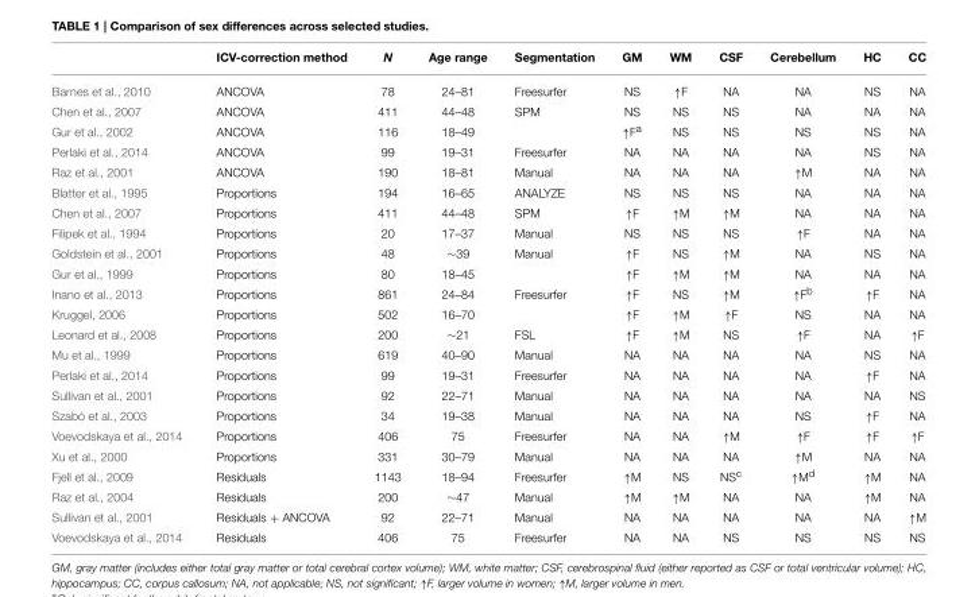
<table><thead><tr><td></td><td>ICV-correction method</td><td>N</td><td>Age range</td><td>Segmentation</td><td>GM</td><td>WM</td><td>CSF</td><td>Cerebellum</td><td>HC</td><td>CC</td></tr></thead><tbody><tr><td>Barnes et al., 2010</td><td>ANCOVA</td><td>78</td><td>24–81</td><td>Freesurfer</td><td>NS</td><td>↑F</td><td>NA</td><td>NA</td><td>NS</td><td>NA</td></tr><tr><td>Chen et al., 2007</td><td>ANCOVA</td><td>411</td><td>44–48</td><td>SPM</td><td>NS</td><td>NS</td><td>NS</td><td>NA</td><td>NA</td><td>NA</td></tr><tr><td>Gur et al., 2002</td><td>ANCOVA</td><td>116</td><td>18–49</td><td></td><td>↑F<sup>a</sup></td><td>NS</td><td>NS</td><td>NS</td><td>NS</td><td>NA</td></tr><tr><td>Perlaki et al., 2014</td><td>ANCOVA</td><td>99</td><td>19–31</td><td>Freesurfer</td><td>NA</td><td>NA</td><td>NA</td><td>NA</td><td>NS</td><td>NA</td></tr><tr><td>Raz et al., 2001</td><td>ANCOVA</td><td>190</td><td>18–81</td><td>Manual</td><td>NA</td><td>NA</td><td>NA</td><td>↑M</td><td>NA</td><td>NA</td></tr><tr><td>Blatter et al., 1995</td><td>Proportions</td><td>194</td><td>16–65</td><td>ANALYZE</td><td>NS</td><td>NS</td><td>NS</td><td>NA</td><td>NA</td><td>NA</td></tr><tr><td>Chen et al., 2007</td><td>Proportions</td><td>411</td><td>44–48</td><td>SPM</td><td>↑F</td><td>↑M</td><td>↑M</td><td>NA</td><td>NA</td><td>NA</td></tr><tr><td>Filipek et al., 1994</td><td>Proportions</td><td>20</td><td>17–37</td><td>Manual</td><td>NS</td><td>NS</td><td>NS</td><td>↑F</td><td>NA</td><td>NA</td></tr><tr><td>Goldstein et al., 2001</td><td>Proportions</td><td>48</td><td>∼39</td><td>Manual</td><td>↑F</td><td>NS</td><td>↑M</td><td>NA</td><td>NS</td><td>NA</td></tr><tr><td>Gur et al., 1999</td><td>Proportions</td><td>80</td><td>18–45</td><td></td><td>↑F</td><td>↑M</td><td>↑M</td><td>NA</td><td>NA</td><td>NA</td></tr><tr><td>Inano et al., 2013</td><td>Proportions</td><td>861</td><td>24–84</td><td>Freesurfer</td><td>↑F</td><td>NS</td><td>↑M</td><td>↑F<sup>b</sup></td><td>↑F</td><td>NA</td></tr><tr><td>Kruggel, 2006</td><td>Proportions</td><td>502</td><td>16–70</td><td></td><td>↑F</td><td>↑M</td><td>↑F</td><td>NS</td><td>NA</td><td>NA</td></tr><tr><td>Leonard et al., 2008</td><td>Proportions</td><td>200</td><td>∼21</td><td>FSL</td><td>↑F</td><td>↑M</td><td>NS</td><td>↑F</td><td>NA</td><td>↑F</td></tr><tr><td>Mu et al., 1999</td><td>Proportions</td><td>619</td><td>40–90</td><td>Manual</td><td>NA</td><td>NA</td><td>NA</td><td>NA</td><td>NS</td><td>NA</td></tr><tr><td>Perlaki et al., 2014</td><td>Proportions</td><td>99</td><td>19–31</td><td>Freesurfer</td><td>NA</td><td>NA</td><td>NA</td><td>NA</td><td>↑F</td><td>NA</td></tr><tr><td>Sullivan et al., 2001</td><td>Proportions</td><td>92</td><td>22–71</td><td>Manual</td><td>NA</td><td>NA</td><td>NA</td><td>NA</td><td>NA</td><td>NS</td></tr><tr><td>Szabó et al., 2003</td><td>Proportions</td><td>34</td><td>19–38</td><td>Manual</td><td>NA</td><td>NA</td><td>NA</td><td>NS</td><td>↑F</td><td>NA</td></tr><tr><td>Voevodskaya et al., 2014</td><td>Proportions</td><td>406</td><td>75</td><td>Freesurfer</td><td>NA</td><td>NA</td><td>↑M</td><td>↑F</td><td>↑F</td><td>↑F</td></tr><tr><td>Xu et al., 2000</td><td>Proportions</td><td>331</td><td>30–79</td><td>Manual</td><td>NA</td><td>NA</td><td>NA</td><td>↑M</td><td>NA</td><td>NA</td></tr><tr><td>Fjell et al., 2009</td><td>Residuals</td><td>1143</td><td>18–94</td><td>Freesurfer</td><td>↑M</td><td>NS</td><td>NS<sup>c</sup></td><td>↑M<sup>d</sup></td><td>↑M</td><td>NA</td></tr><tr><td>Raz et al., 2004</td><td>Residuals</td><td>200</td><td>∼47</td><td>Manual</td><td>↑M</td><td>↑M</td><td>NA</td><td>NA</td><td>↑M</td><td>NA</td></tr><tr><td>Sullivan et al., 2001</td><td>Residuals + ANCOVA</td><td>92</td><td>22–71</td><td>Manual</td><td>NA</td><td>NA</td><td>NA</td><td>NA</td><td>NA</td><td>↑M</td></tr><tr><td>Voevodskaya et al., 2014</td><td>Residuals</td><td>406</td><td>75</td><td>Freesurfer</td><td>NA</td><td>NA</td><td>NS</td><td>NS</td><td>NS</td><td>NS</td></tr></tbody></table>